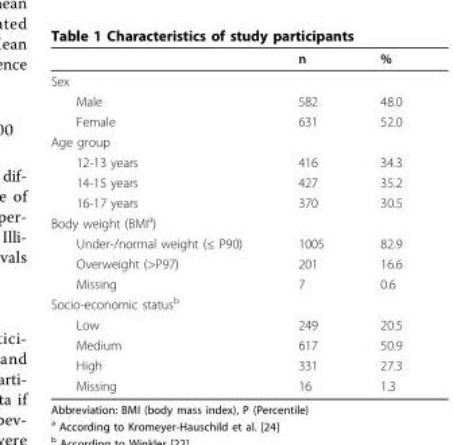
<table><thead><tr><td></td><td>n</td><td>%</td></tr></thead><tbody><tr><td colspan="3">Sex</td></tr><tr><td>Male</td><td>582</td><td>48.0</td></tr><tr><td>Female</td><td>631</td><td>52.0</td></tr><tr><td colspan="3">Age group</td></tr><tr><td>12-13 years</td><td>416</td><td>34.3</td></tr><tr><td>14-15 years</td><td>427</td><td>35.2</td></tr><tr><td>16-17 years</td><td>370</td><td>30.5</td></tr><tr><td colspan="3">Body weight (BMI<sup>a</sup>)</td></tr><tr><td>Under-/normal weight (≤ P90)</td><td>1005</td><td>82.9</td></tr><tr><td>Overweight (&gt;P97)</td><td>201</td><td>16.6</td></tr><tr><td>Missing</td><td>7</td><td>0.6</td></tr><tr><td colspan="3">Socio-economic status<sup>b</sup></td></tr><tr><td>Low</td><td>249</td><td>20.5</td></tr><tr><td>Medium</td><td>617</td><td>50.9</td></tr><tr><td>High</td><td>331</td><td>27.3</td></tr><tr><td>Missing</td><td>16</td><td>1.3</td></tr></tbody></table>